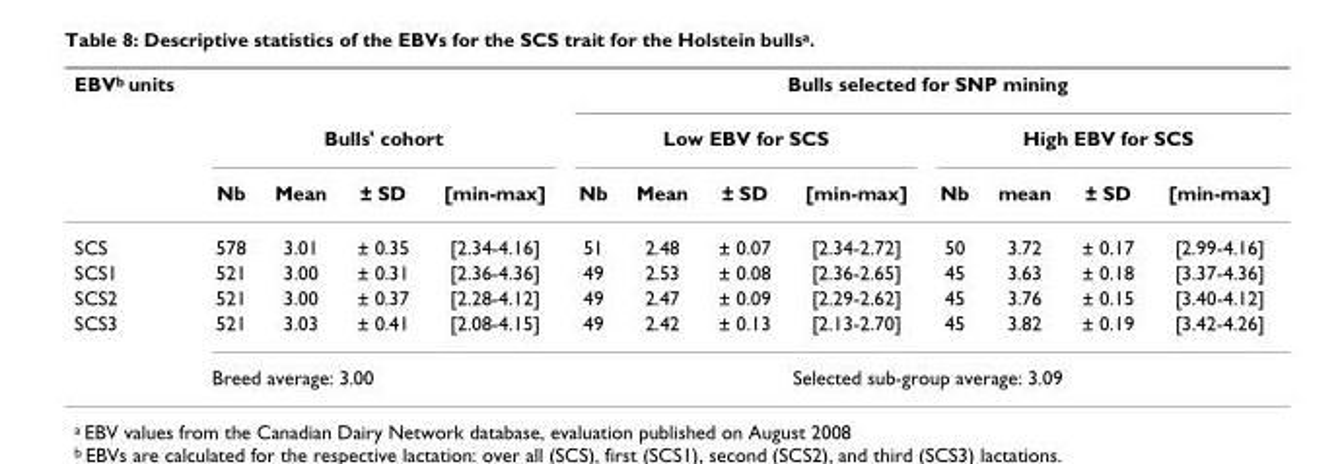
<table><thead><tr><td rowspan="3">EBV<sup>b</sup> units</td><td></td><td></td><td></td><td></td><td colspan="8">Bulls selected for SNP mining</td></tr><tr><td colspan="4">Bulls&#x27; cohort</td><td colspan="4">Low EBV for SCS</td><td colspan="4">High EBV for SCS</td></tr><tr><td>Nb</td><td>Mean</td><td>± SD</td><td>[min-max]</td><td>Nb</td><td>Mean</td><td>± SD</td><td>[min-max]</td><td>Nb</td><td>mean</td><td>± SD</td><td>[min-max]</td></tr></thead><tbody><tr><td>SCS</td><td>578</td><td>3.01</td><td>± 0.35</td><td>[2.34-4.16]</td><td>51</td><td>2.48</td><td>± 0.07</td><td>[2.34-2.72]</td><td>50</td><td>3.72</td><td>± 0.17</td><td>[2.99-4.16]</td></tr><tr><td>SCS1</td><td>521</td><td>3.00</td><td>± 0.31</td><td>[2.36-4.36]</td><td>49</td><td>2.53</td><td>± 0.08</td><td>[2.36-2.65]</td><td>45</td><td>3.63</td><td>± 0.18</td><td>[3.37-4.36]</td></tr><tr><td>SCS2</td><td>521</td><td>3.00</td><td>± 0.37</td><td>[2.28-4.12]</td><td>49</td><td>2.47</td><td>± 0.09</td><td>[2.29-2.62]</td><td>45</td><td>3.76</td><td>± 0.15</td><td>[3.40-4.12]</td></tr><tr><td rowspan="2">SCS3</td><td>521</td><td>3.03</td><td>± 0.41</td><td>[2.08-4.15]</td><td>49</td><td>2.42</td><td>± 0.13</td><td>[2.13-2.70]</td><td>45</td><td>3.82</td><td>± 0.19</td><td>[3.42-4.26]</td></tr><tr><td colspan="4">Breed average: 3.00</td><td colspan="8">Selected sub-group average: 3.09</td></tr></tbody></table>